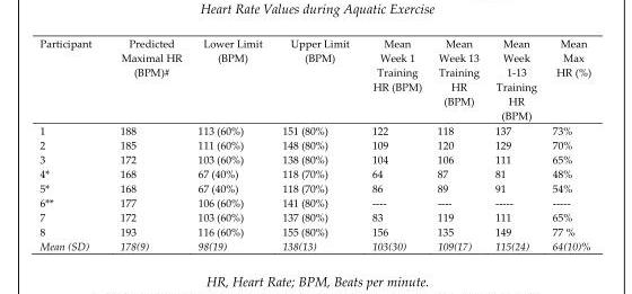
<table><thead><tr><td>Participant</td><td>Predicted Maximal HR (BPM)<sup>#</sup></td><td>Lower Limit (BPM)</td><td>Upper Limit (BPM)</td><td>Mean Week 1 Training HR (BPM)</td><td>Mean Week 13 Training HR (BPM)</td><td>Mean Week 1-13 Training HR (BPM)</td><td>Mean Max HR (%)</td></tr></thead><tbody><tr><td>1</td><td>188</td><td>113 (60%)</td><td>151 (80%)</td><td>122</td><td>118</td><td>137</td><td>73%</td></tr><tr><td>2</td><td>185</td><td>111 (60%)</td><td>148 (80%)</td><td>109</td><td>120</td><td>129</td><td>70%</td></tr><tr><td>3</td><td>172</td><td>103 (60%)</td><td>138 (80%)</td><td>104</td><td>106</td><td>111</td><td>65%</td></tr><tr><td>4*</td><td>168</td><td>67 (40%)</td><td>118 (70%)</td><td>64</td><td>87</td><td>81</td><td>48%</td></tr><tr><td>5*</td><td>168</td><td>67 (40%)</td><td>118 (70%)</td><td>86</td><td>89</td><td>91</td><td>54%</td></tr><tr><td>6**</td><td>177</td><td>106 (60%)</td><td>141 (80%)</td><td>----</td><td>----</td><td>-----</td><td>-----</td></tr><tr><td>7</td><td>172</td><td>103 (60%)</td><td>137 (80%)</td><td>83</td><td>119</td><td>111</td><td>65%</td></tr><tr><td>8</td><td>193</td><td>116 (60%)</td><td>155 (80%)</td><td>156</td><td>135</td><td>149</td><td>77 %</td></tr><tr><td>Mean (SD)</td><td>178(9)</td><td>98(19)</td><td>138(13)</td><td>103(30)</td><td>109(17)</td><td>115(24)</td><td>64(10)%</td></tr></tbody></table>